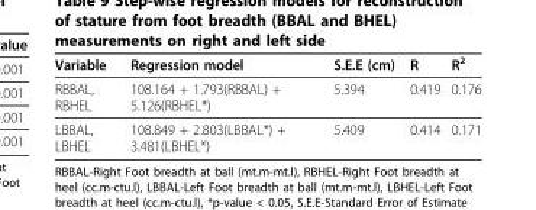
<table><thead><tr><td>Variable</td><td>Regression model</td><td>S.E.E (cm)</td><td>R</td><td>R<sup>2</sup></td></tr></thead><tbody><tr><td>RBBAL, RBHEL</td><td>108.164 + 1.793(RBBAL) + 5.126(RBHEL*)</td><td>5.394</td><td>0.419</td><td>0.176</td></tr><tr><td>LBBAL, LBHEL</td><td>108.849 + 2.803(LBBAL*) + 3.481(LBHEL*)</td><td>5.409</td><td>0.414</td><td>0.171</td></tr></tbody></table>